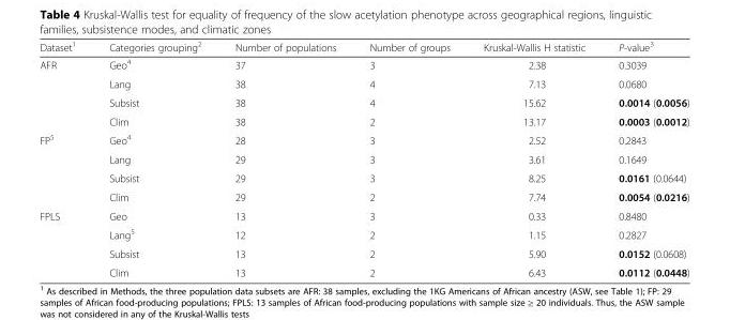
<table><thead><tr><td>Dataset<sup>1</sup></td><td>Categories grouping<sup>2</sup></td><td>Number of populations</td><td>Number of groups</td><td>Kruskal-Wallis H statistic</td><td>P-value<sup>3</sup></td></tr></thead><tbody><tr><td rowspan="4">AFR</td><td>Geo<sup>4</sup></td><td>37</td><td>3</td><td>2.38</td><td>0.3039</td></tr><tr><td>Lang</td><td>38</td><td>4</td><td>7.13</td><td>0.0680</td></tr><tr><td>Subsist</td><td>38</td><td>4</td><td>15.62</td><td>0.0014 (0.0056)</td></tr><tr><td>Clim</td><td>38</td><td>2</td><td>13.17</td><td>0.0003 (0.0012)</td></tr><tr><td rowspan="4">FP<sup>5</sup></td><td>Geo<sup>4</sup></td><td>28</td><td>3</td><td>2.52</td><td>0.2843</td></tr><tr><td>Lang</td><td>29</td><td>3</td><td>3.61</td><td>0.1649</td></tr><tr><td>Subsist</td><td>29</td><td>3</td><td>8.25</td><td>0.0161 (0.0644)</td></tr><tr><td>Clim</td><td>29</td><td>2</td><td>7.74</td><td>0.0054 (0.0216)</td></tr><tr><td rowspan="4">FPLS</td><td>Geo</td><td>13</td><td>3</td><td>0.33</td><td>0.8480</td></tr><tr><td>Lang<sup>5</sup></td><td>12</td><td>2</td><td>1.15</td><td>0.2827</td></tr><tr><td>Subsist</td><td>13</td><td>2</td><td>5.90</td><td>0.0152 (0.0608)</td></tr><tr><td>Clim</td><td>13</td><td>2</td><td>6.43</td><td>0.0112 (0.0448)</td></tr></tbody></table>